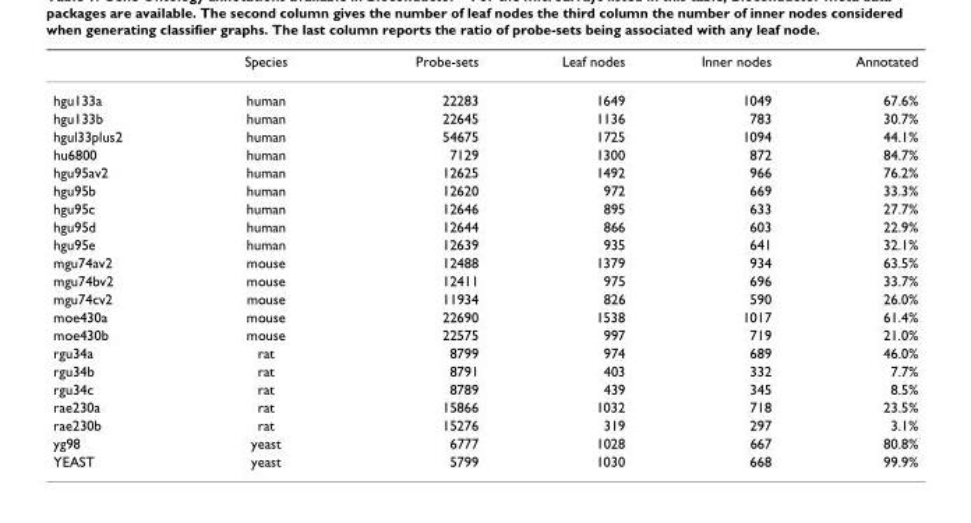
<table><thead><tr><td></td><td>Species</td><td>Probe-sets</td><td>Leaf nodes</td><td>Inner nodes</td><td>Annotated</td></tr></thead><tbody><tr><td>hgu133a</td><td>human</td><td>22283</td><td>1649</td><td>1049</td><td>67.6%</td></tr><tr><td>hgu133b</td><td>human</td><td>22645</td><td>1136</td><td>783</td><td>30.7%</td></tr><tr><td>hgul33plus2</td><td>human</td><td>54675</td><td>1725</td><td>1094</td><td>44.1%</td></tr><tr><td>hu6800</td><td>human</td><td>7129</td><td>1300</td><td>872</td><td>84.7%</td></tr><tr><td>hgu95av2</td><td>human</td><td>12625</td><td>1492</td><td>966</td><td>76.2%</td></tr><tr><td>hgu95b</td><td>human</td><td>12620</td><td>972</td><td>669</td><td>33.3%</td></tr><tr><td>hgu95c</td><td>human</td><td>12646</td><td>895</td><td>633</td><td>27.7%</td></tr><tr><td>hgu95d</td><td>human</td><td>12644</td><td>866</td><td>603</td><td>22.9%</td></tr><tr><td>hgu95e</td><td>human</td><td>12639</td><td>935</td><td>641</td><td>32.1%</td></tr><tr><td>mgu74av2</td><td>mouse</td><td>12488</td><td>1379</td><td>934</td><td>63.5%</td></tr><tr><td>mgu74bv2</td><td>mouse</td><td>12411</td><td>975</td><td>696</td><td>33.7%</td></tr><tr><td>mgu74cv2</td><td>mouse</td><td>11934</td><td>826</td><td>590</td><td>26.0%</td></tr><tr><td>moe430a</td><td>mouse</td><td>22690</td><td>1538</td><td>1017</td><td>61.4%</td></tr><tr><td>moe430b</td><td>mouse</td><td>22575</td><td>997</td><td>719</td><td>21.0%</td></tr><tr><td>rgu34a</td><td>rat</td><td>8799</td><td>974</td><td>689</td><td>46.0%</td></tr><tr><td>rgu34b</td><td>rat</td><td>8791</td><td>403</td><td>332</td><td>7.7%</td></tr><tr><td>rgu34c</td><td>rat</td><td>8789</td><td>439</td><td>345</td><td>8.5%</td></tr><tr><td>rae230a</td><td>rat</td><td>15866</td><td>1032</td><td>718</td><td>23.5%</td></tr><tr><td>rae230b</td><td>rat</td><td>15276</td><td>319</td><td>297</td><td>3.1%</td></tr><tr><td>yg98</td><td>yeast</td><td>6777</td><td>1028</td><td>667</td><td>80.8%</td></tr><tr><td>YEAST</td><td>yeast</td><td>5799</td><td>1030</td><td>668</td><td>99.9%</td></tr></tbody></table>